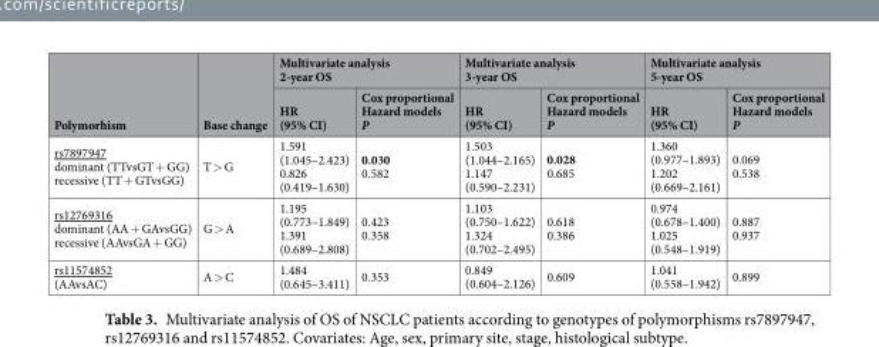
<table><thead><tr><td rowspan="2">Polymorhism</td><td rowspan="2">Base change</td><td colspan="2">Multivariate analysis 2-year OS</td><td colspan="2">Multivariate analysis 3-year OS</td><td colspan="2">Multivariate analysis 5-year OS</td></tr><tr><td>HR (95% CI)</td><td>Cox proportional Hazard models P</td><td>HR (95% CI)</td><td>Cox proportional Hazard models P</td><td>HR (95% CI)</td><td>Cox proportional Hazard models P</td></tr></thead><tbody><tr><td>rs7897947 dominant (TTvsGT + GG) recessive (TT + GTvsGG)</td><td>T &gt; G</td><td>1.591 (1.045–2.423) 0.826 (0.419–1.630)</td><td>0.030 0.582</td><td>1.503 (1.044–2.165) 1.147 (0.590–2.231)</td><td>0.028 0.685</td><td>1.360 (0.977–1.893) 1.202 (0.669–2.161)</td><td>0.069 0.538</td></tr><tr><td>rs12769316 dominant (AA + GAvsGG) recessive (AAvsGA + GG)</td><td>G &gt; A</td><td>1.195 (0.773–1.849) 1.391 (0.689–2.808)</td><td>0.423 0.358</td><td>1.103 (0.750–1.622) 1.324 (0.702–2.495)</td><td>0.618 0.386</td><td>0.974 (0.678–1.400) 1.025 (0.548–1.919)</td><td>0.887 0.937</td></tr><tr><td>rs11574852 (AAvsAC)</td><td>A &gt; C</td><td>1.484 (0.645–3.411)</td><td>0.353</td><td>0.849 (0.604–2.126)</td><td>0.609</td><td>1.041 (0.558–1.942)</td><td>0.899</td></tr></tbody></table>